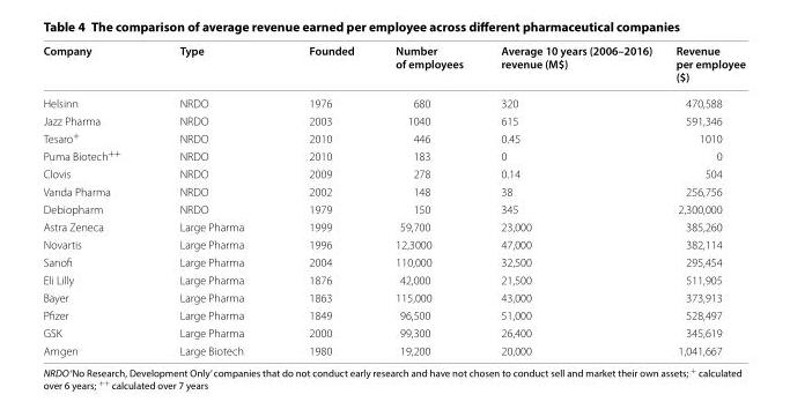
<table><thead><tr><td>Company</td><td>Type</td><td>Founded</td><td>Number of employees</td><td>Average 10 years (2006–2016) revenue (M$)</td><td>Revenue per employee ($)</td></tr></thead><tbody><tr><td>Helsinn</td><td>NRDO</td><td>1976</td><td>680</td><td>320</td><td>470,588</td></tr><tr><td>Jazz Pharma</td><td>NRDO</td><td>2003</td><td>1040</td><td>615</td><td>591,346</td></tr><tr><td>Tesaro<sup>+</sup></td><td>NRDO</td><td>2010</td><td>446</td><td>0.45</td><td>1010</td></tr><tr><td>Puma Biotech<sup>++</sup></td><td>NRDO</td><td>2010</td><td>183</td><td>0</td><td>0</td></tr><tr><td>Clovis</td><td>NRDO</td><td>2009</td><td>278</td><td>0.14</td><td>504</td></tr><tr><td>Vanda Pharma</td><td>NRDO</td><td>2002</td><td>148</td><td>38</td><td>256,756</td></tr><tr><td>Debiopharm</td><td>NRDO</td><td>1979</td><td>150</td><td>345</td><td>2,300,000</td></tr><tr><td>Astra Zeneca</td><td>Large Pharma</td><td>1999</td><td>59,700</td><td>23,000</td><td>385,260</td></tr><tr><td>Novartis</td><td>Large Pharma</td><td>1996</td><td>12,3000</td><td>47,000</td><td>382,114</td></tr><tr><td>Sanofi</td><td>Large Pharma</td><td>2004</td><td>110,000</td><td>32,500</td><td>295,454</td></tr><tr><td>Eli Lilly</td><td>Large Pharma</td><td>1876</td><td>42,000</td><td>21,500</td><td>511,905</td></tr><tr><td>Bayer</td><td>Large Pharma</td><td>1863</td><td>115,000</td><td>43,000</td><td>373,913</td></tr><tr><td>Pfizer</td><td>Large Pharma</td><td>1849</td><td>96,500</td><td>51,000</td><td>528,497</td></tr><tr><td>GSK</td><td>Large Pharma</td><td>2000</td><td>99,300</td><td>26,400</td><td>345,619</td></tr><tr><td>Amgen</td><td>Large Biotech</td><td>1980</td><td>19,200</td><td>20,000</td><td>1,041,667</td></tr></tbody></table>